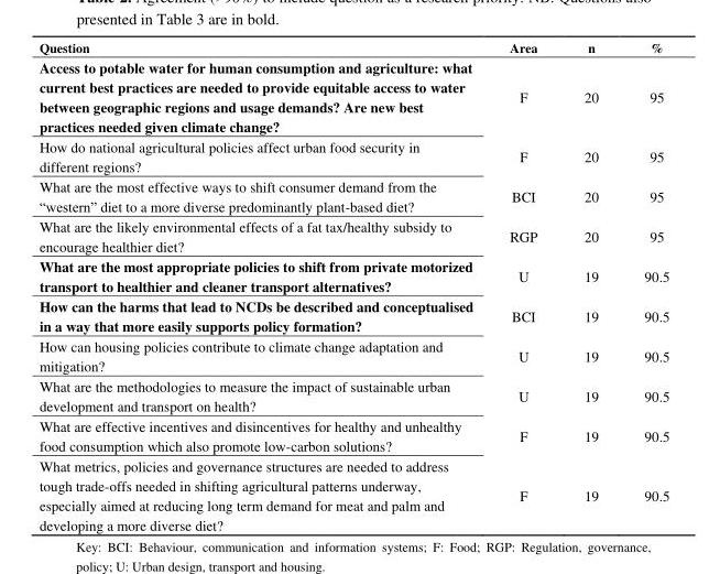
<table><thead><tr><td>Question</td><td>Area</td><td>n</td><td>%</td></tr></thead><tbody><tr><td>Access to potable water for human consumption and agriculture: what current best practices are needed to provide equitable access to water between geographic regions and usage demands? Are new best practices needed given climate change?</td><td>F</td><td>20</td><td>95</td></tr><tr><td>How do national agricultural policies affect urban food security in different regions?</td><td>F</td><td>20</td><td>95</td></tr><tr><td>What are the most effective ways to shift consumer demand from the “western” diet to a more diverse predominantly plant-based diet?</td><td>BCI</td><td>20</td><td>95</td></tr><tr><td>What are the likely environmental effects of a fat tax/healthy subsidy to encourage healthier diet?</td><td>RGP</td><td>20</td><td>95</td></tr><tr><td>What are the most appropriate policies to shift from private motorized transport to healthier and cleaner transport alternatives?</td><td>U</td><td>19</td><td>90.5</td></tr><tr><td>How can the harms that lead to NCDs be described and conceptualised in a way that more easily supports policy formation?</td><td>BCI</td><td>19</td><td>90.5</td></tr><tr><td>How can housing policies contribute to climate change adaptation and mitigation?</td><td>U</td><td>19</td><td>90.5</td></tr><tr><td>What are the methodologies to measure the impact of sustainable urban development and transport on health?</td><td>U</td><td>19</td><td>90.5</td></tr><tr><td>What are effective incentives and disincentives for healthy and unhealthy food consumption which also promote low-carbon solutions?</td><td>F</td><td>19</td><td>90.5</td></tr><tr><td>What metrics, policies and governance structures are needed to address tough trade-offs needed in shifting agricultural patterns underway, especially aimed at reducing long term demand for meat and palm and developing a more diverse diet?</td><td>F</td><td>19</td><td>90.5</td></tr></tbody></table>